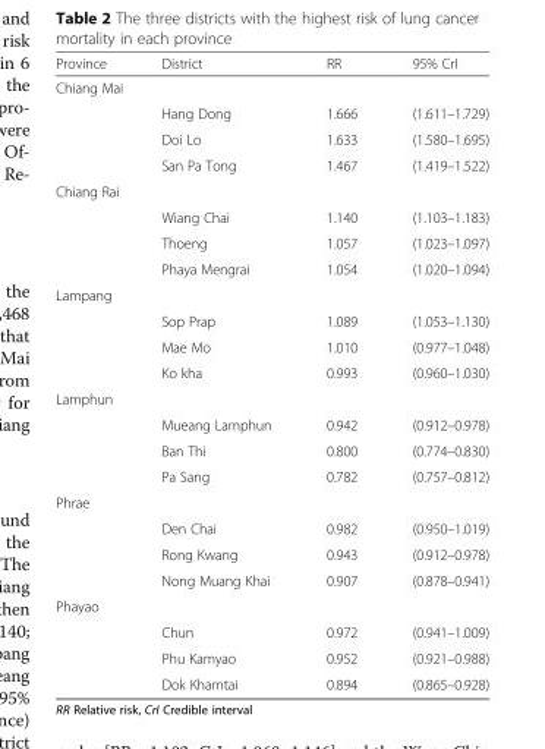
<table><thead><tr><td>Province</td><td>District</td><td>RR</td><td>95% CrI</td></tr></thead><tbody><tr><td colspan="4">Chiang Mai</td></tr><tr><td></td><td>Hang Dong</td><td>1.666</td><td>(1.611–1.729)</td></tr><tr><td></td><td>Doi Lo</td><td>1.633</td><td>(1.580–1.695)</td></tr><tr><td></td><td>San Pa Tong</td><td>1.467</td><td>(1.419–1.522)</td></tr><tr><td colspan="4">Chiang Rai</td></tr><tr><td></td><td>Wiang Chai</td><td>1.140</td><td>(1.103–1.183)</td></tr><tr><td></td><td>Thoeng</td><td>1.057</td><td>(1.023–1.097)</td></tr><tr><td></td><td>Phaya Mengrai</td><td>1.054</td><td>(1.020–1.094)</td></tr><tr><td colspan="4">Lampang</td></tr><tr><td></td><td>Sop Prap</td><td>1.089</td><td>(1.053–1.130)</td></tr><tr><td></td><td>Mae Mo</td><td>1.010</td><td>(0.977–1.048)</td></tr><tr><td></td><td>Ko kha</td><td>0.993</td><td>(0.960–1.030)</td></tr><tr><td colspan="4">Lamphun</td></tr><tr><td></td><td>Mueang Lamphun</td><td>0.942</td><td>(0.912–0.978)</td></tr><tr><td></td><td>Ban Thi</td><td>0.800</td><td>(0.774–0.830)</td></tr><tr><td></td><td>Pa Sang</td><td>0.782</td><td>(0.757–0.812)</td></tr><tr><td colspan="4">Phrae</td></tr><tr><td></td><td>Den Chai</td><td>0.982</td><td>(0.950–1.019)</td></tr><tr><td></td><td>Rong Kwang</td><td>0.943</td><td>(0.912–0.978)</td></tr><tr><td></td><td>Nong Muang Khai</td><td>0.907</td><td>(0.878–0.941)</td></tr><tr><td colspan="4">Phayao</td></tr><tr><td></td><td>Chun</td><td>0.972</td><td>(0.941–1.009)</td></tr><tr><td></td><td>Phu Kamyao</td><td>0.952</td><td>(0.921–0.988)</td></tr><tr><td></td><td>Dok Khamtai</td><td>0.894</td><td>(0.865–0.928)</td></tr></tbody></table>